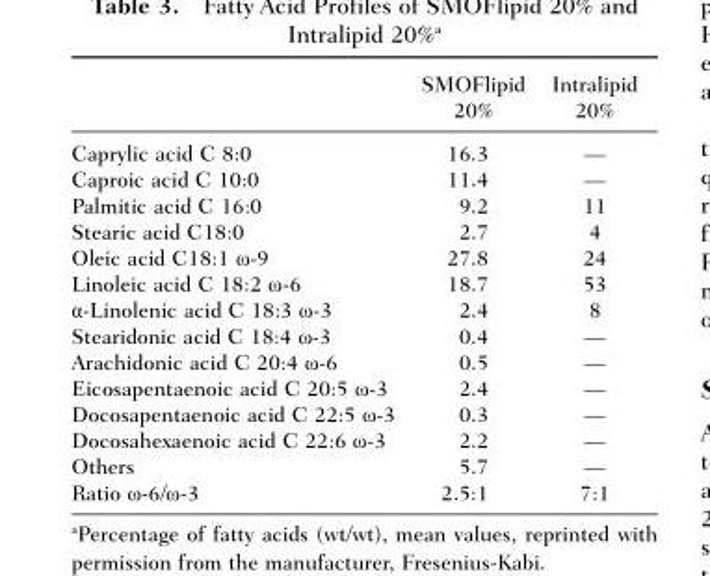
<table><thead><tr><td></td><td>SMOFlipid 20%</td><td>Intralipid 20%</td></tr></thead><tbody><tr><td>Caprylic acid C 8:0</td><td>16.3</td><td>—</td></tr><tr><td>Caproic acid C 10:0</td><td>11.4</td><td>—</td></tr><tr><td>Palmitic acid C 16:0</td><td>9.2</td><td>11</td></tr><tr><td>Stearic acid C18:0</td><td>2.7</td><td>4</td></tr><tr><td>Oleic acid C18:1 ω-9</td><td>27.8</td><td>24</td></tr><tr><td>Linoleic acid C 18:2 ω-6</td><td>18.7</td><td>53</td></tr><tr><td>α-Linolenic acid C 18:3 ω-3</td><td>2.4</td><td>8</td></tr><tr><td>Stearidonic acid C 18:4 ω-3</td><td>0.4</td><td>—</td></tr><tr><td>Arachidonic acid C 20:4 ω-6</td><td>0.5</td><td>—</td></tr><tr><td>Eicosapentaenoic acid C 20:5 ω-3</td><td>2.4</td><td>—</td></tr><tr><td>Docosapentaenoic acid C 22:5 ω-3</td><td>0.3</td><td>—</td></tr><tr><td>Docosahexaenoic acid C 22:6 ω-3</td><td>2.2</td><td>—</td></tr><tr><td>Others</td><td>5.7</td><td>—</td></tr><tr><td>Ratio ω-6/ω-3</td><td>2.5:1</td><td>7:1</td></tr></tbody></table>